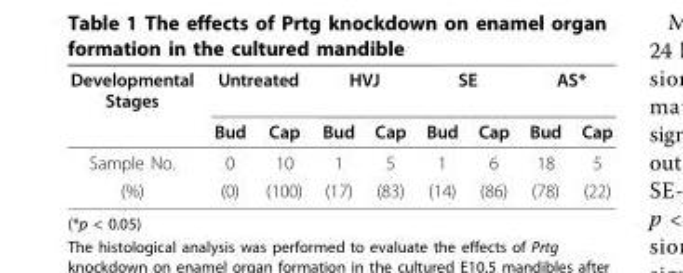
<table><thead><tr><td rowspan="2">Developmental Stages</td><td colspan="2">Untreated</td><td colspan="2">HVJ</td><td colspan="2">SE</td><td colspan="2">AS*</td></tr><tr><td>Bud</td><td>Cap</td><td>Bud</td><td>Cap</td><td>Bud</td><td>Cap</td><td>Bud</td><td>Cap</td></tr></thead><tbody><tr><td>Sample No.</td><td>0</td><td>10</td><td>1</td><td>5</td><td>1</td><td>6</td><td>18</td><td>5</td></tr><tr><td>(%)</td><td>(0)</td><td>(100)</td><td>(17)</td><td>(83)</td><td>(14)</td><td>(86)</td><td>(78)</td><td>(22)</td></tr></tbody></table>